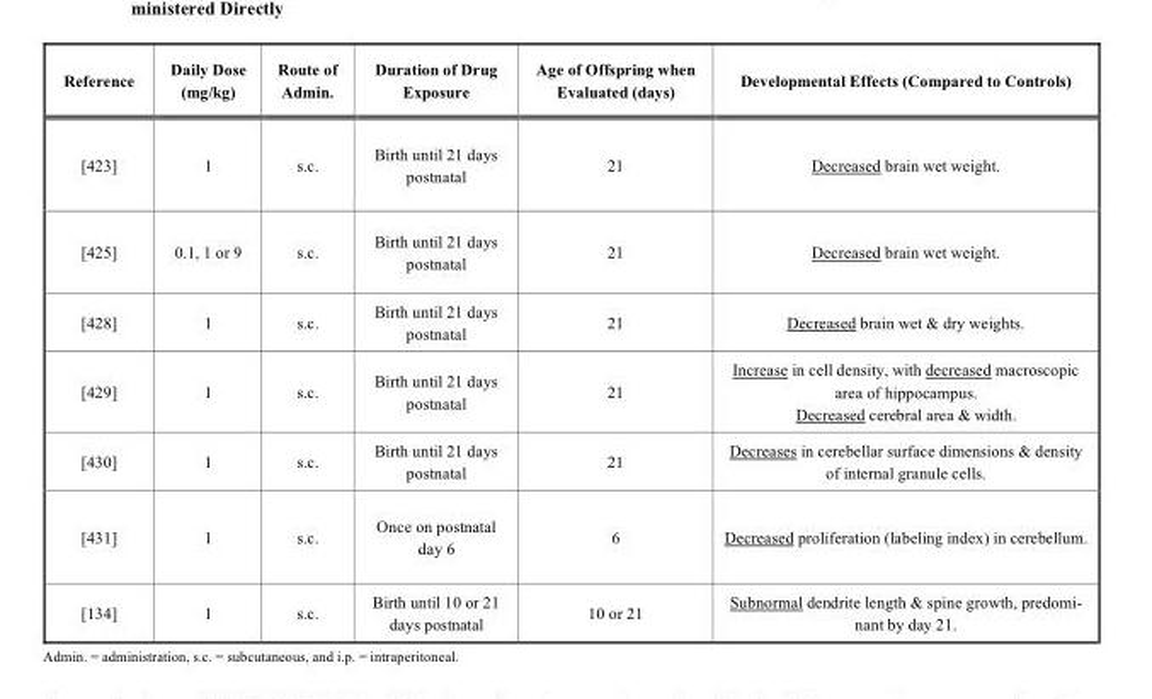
<table><thead><tr><td>Reference</td><td>Daily Dose (mg/kg)</td><td>Route of Admin.</td><td>Duration of Drug Exposure</td><td>Age of Offspring when Evaluated (days)</td><td>Developmental Effects (Compared to Controls)</td></tr></thead><tbody><tr><td>[423]</td><td>1</td><td>s.c.</td><td>Birth until 21 days postnatal</td><td>21</td><td>Decreased brain wet weight.</td></tr><tr><td>[425]</td><td>0.1, 1 or 9</td><td>s.c.</td><td>Birth until 21 days postnatal</td><td>21</td><td>Decreased brain wet weight.</td></tr><tr><td>[428]</td><td>1</td><td>s.c.</td><td>Birth until 21 days postnatal</td><td>21</td><td>Decreased brain wet &amp; dry weights.</td></tr><tr><td>[429]</td><td>1</td><td>s.c.</td><td>Birth until 21 days postnatal</td><td>21</td><td>Increase in cell density, with decreased macroscopic area of hippocampus. Decreased cerebral area &amp; width.</td></tr><tr><td>[430]</td><td>1</td><td>s.c.</td><td>Birth until 21 days postnatal</td><td>21</td><td>Decreases in cerebellar surface dimensions &amp; density of internal granule cells.</td></tr><tr><td>[431]</td><td>1</td><td>s.c.</td><td>Once on postnatal day 6</td><td>6</td><td>Decreased proliferation (labeling index) in cerebellum.</td></tr><tr><td>[134]</td><td>1</td><td>s.c.</td><td>Birth until 10 or 21 days postnatal</td><td>10 or 21</td><td>Subnormal dendrite length &amp; spine growth, predomi- nant by day 21.</td></tr></tbody></table>